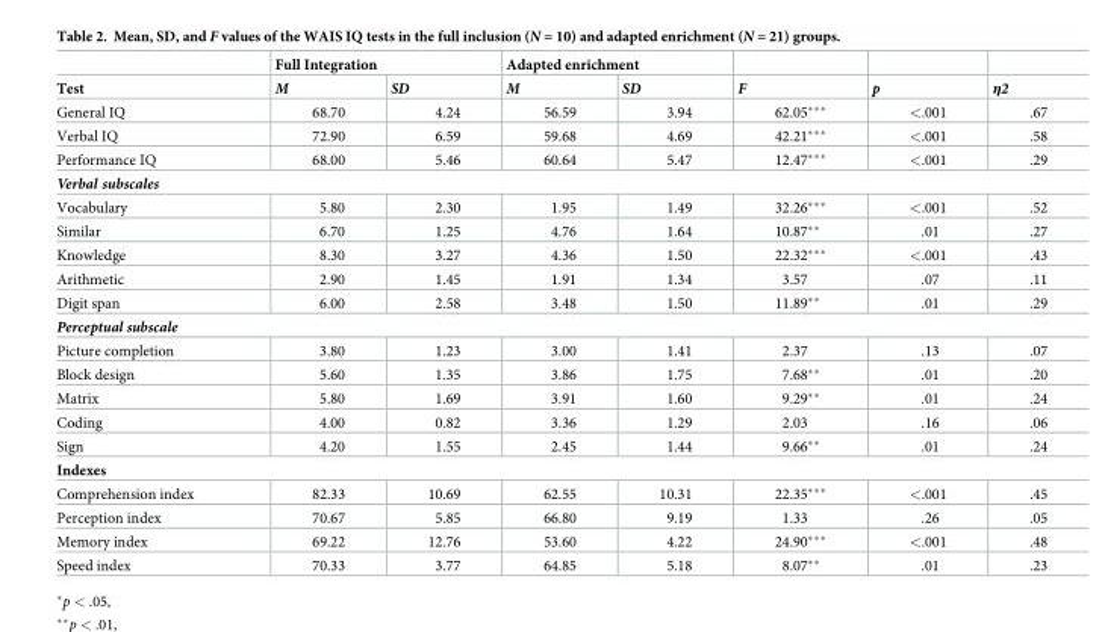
<table><thead><tr><td rowspan="2">Test</td><td colspan="2">Full Integration</td><td colspan="2">Adapted enrichment</td><td rowspan="2">F</td><td rowspan="2">p</td><td rowspan="2">η2</td></tr><tr><td>M</td><td>SD</td><td>M</td><td>SD</td></tr></thead><tbody><tr><td>General IQ</td><td>68.70</td><td>4.24</td><td>56.59</td><td>3.94</td><td>62.05***</td><td>&lt;.001</td><td>.67</td></tr><tr><td>Verbal IQ</td><td>72.90</td><td>6.59</td><td>59.68</td><td>4.69</td><td>42.21***</td><td>&lt;.001</td><td>.58</td></tr><tr><td>Performance IQ</td><td>68.00</td><td>5.46</td><td>60.64</td><td>5.47</td><td>12.47***</td><td>&lt;.001</td><td>.29</td></tr><tr><td colspan="8">Verbal subscales</td></tr><tr><td>Vocabulary</td><td>5.80</td><td>2.30</td><td>1.95</td><td>1.49</td><td>32.26***</td><td>&lt;.001</td><td>.52</td></tr><tr><td>Similar</td><td>6.70</td><td>1.25</td><td>4.76</td><td>1.64</td><td>10.87**</td><td>.01</td><td>.27</td></tr><tr><td>Knowledge</td><td>8.30</td><td>3.27</td><td>4.36</td><td>1.50</td><td>22.32***</td><td>&lt;.001</td><td>.43</td></tr><tr><td>Arithmetic</td><td>2.90</td><td>1.45</td><td>1.91</td><td>1.34</td><td>3.57</td><td>.07</td><td>.11</td></tr><tr><td>Digit span</td><td>6.00</td><td>2.58</td><td>3.48</td><td>1.50</td><td>11.89**</td><td>.01</td><td>.29</td></tr><tr><td colspan="8">Perceptual subscale</td></tr><tr><td>Picture completion</td><td>3.80</td><td>1.23</td><td>3.00</td><td>1.41</td><td>2.37</td><td>.13</td><td>.07</td></tr><tr><td>Block design</td><td>5.60</td><td>1.35</td><td>3.86</td><td>1.75</td><td>7.68**</td><td>.01</td><td>.20</td></tr><tr><td>Matrix</td><td>5.80</td><td>1.69</td><td>3.91</td><td>1.60</td><td>9.29**</td><td>.01</td><td>.24</td></tr><tr><td>Coding</td><td>4.00</td><td>0.82</td><td>3.36</td><td>1.29</td><td>2.03</td><td>.16</td><td>.06</td></tr><tr><td>Sign</td><td>4.20</td><td>1.55</td><td>2.45</td><td>1.44</td><td>9.66**</td><td>.01</td><td>.24</td></tr><tr><td colspan="8">Indexes</td></tr><tr><td>Comprehension index</td><td>82.33</td><td>10.69</td><td>62.55</td><td>10.31</td><td>22.35***</td><td>&lt;.001</td><td>.45</td></tr><tr><td>Perception index</td><td>70.67</td><td>5.85</td><td>66.80</td><td>9.19</td><td>1.33</td><td>.26</td><td>.05</td></tr><tr><td>Memory index</td><td>69.22</td><td>12.76</td><td>53.60</td><td>4.22</td><td>24.90***</td><td>&lt;.001</td><td>.48</td></tr><tr><td>Speed index</td><td>70.33</td><td>3.77</td><td>64.85</td><td>5.18</td><td>8.07**</td><td>.01</td><td>.23</td></tr></tbody></table>